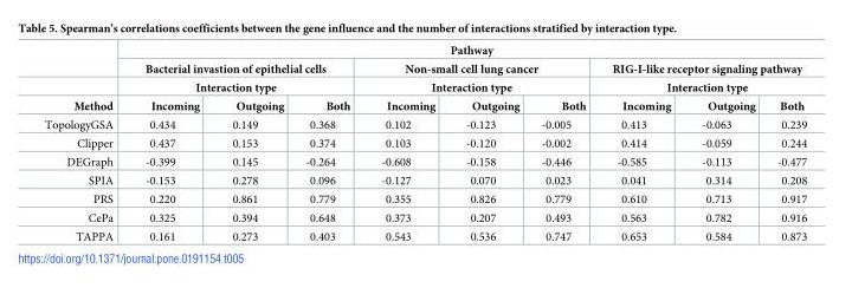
<table><thead><tr><td rowspan="4">Method</td><td colspan="9">Pathway</td></tr><tr><td rowspan="2" colspan="3">Bacterial invastion of epithelial cells Interaction type</td><td rowspan="2" colspan="3">Non-small cell lung cancer Interaction type</td><td rowspan="2" colspan="3">RIG-I-like receptor signaling pathway Interaction type</td></tr><tr></tr><tr><td>Incoming</td><td>Outgoing</td><td>Both</td><td>Incoming</td><td>Outgoing</td><td>Both</td><td>Incoming</td><td>Outgoing</td><td>Both</td></tr></thead><tbody><tr><td>TopologyGSA</td><td>0.434</td><td>0.149</td><td>0.368</td><td>0.102</td><td>-0.123</td><td>-0.005</td><td>0.413</td><td>-0.063</td><td>0.239</td></tr><tr><td>Clipper</td><td>0.437</td><td>0.153</td><td>0.374</td><td>0.103</td><td>-0.120</td><td>-0.002</td><td>0.414</td><td>-0.059</td><td>0.244</td></tr><tr><td>DEGraph</td><td>-0.399</td><td>0.145</td><td>-0.264</td><td>-0.608</td><td>-0.158</td><td>-0.446</td><td>-0.585</td><td>-0.113</td><td>-0.477</td></tr><tr><td>SPIA</td><td>-0.153</td><td>0.278</td><td>0.096</td><td>-0.127</td><td>0.070</td><td>0.023</td><td>0.041</td><td>0.314</td><td>0.208</td></tr><tr><td>PRS</td><td>0.220</td><td>0.861</td><td>0.779</td><td>0.355</td><td>0.826</td><td>0.779</td><td>0.610</td><td>0.713</td><td>0.917</td></tr><tr><td>CePa</td><td>0.325</td><td>0.394</td><td>0.648</td><td>0.373</td><td>0.207</td><td>0.493</td><td>0.563</td><td>0.782</td><td>0.916</td></tr><tr><td>TAPPA</td><td>0.161</td><td>0.273</td><td>0.403</td><td>0.543</td><td>0.536</td><td>0.747</td><td>0.653</td><td>0.584</td><td>0.873</td></tr></tbody></table>